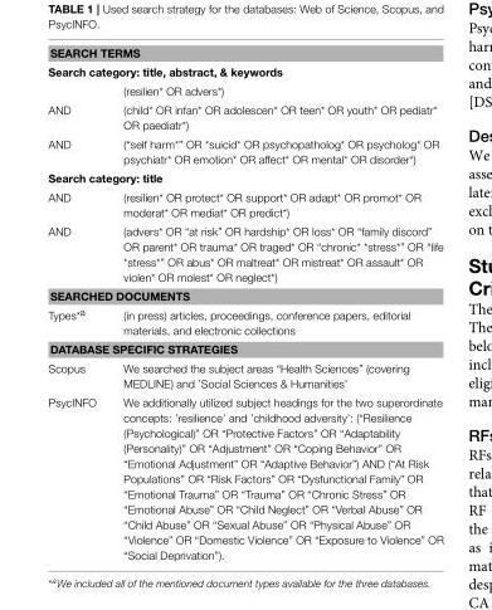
<table><tbody><tr><td colspan="2">SEARCH TERMS</td></tr><tr><td colspan="2">Search category: title, abstract, &amp; keywords</td></tr><tr><td></td><td>(resilien* OR advers*)</td></tr><tr><td>AND</td><td>(child* OR infan* OR adolescen* OR teen* OR youth* OR pediatr* OR paediatr*)</td></tr><tr><td>AND</td><td>(“self harm*” OR *suicid* OR psychopatholog* OR psycholog* OR psychiatr* OR emotion* OR affect* OR mental* OR disorder*)</td></tr><tr><td colspan="2">Search category: title</td></tr><tr><td>AND</td><td>(resilien* OR protect* OR support* OR adapt* OR promot* OR moderat* OR mediat* OR predict*)</td></tr><tr><td>AND</td><td>(advers* OR “at risk” OR hardship* OR loss* OR “family discord” OR parent* OR trauma* OR traged* OR “chronic* *stress*” OR “life *stress*” OR abus* OR maltreat* OR mistreat* OR assault* OR violen* OR molest* OR neglect*)</td></tr><tr><td colspan="2">SEARCHED DOCUMENTS</td></tr><tr><td>Types<sup>*a</sup></td><td>(in press) articles, proceedings, conference papers, editorial materials, and electronic collections</td></tr><tr><td colspan="2">DATABASE SPECIFIC STRATEGIES</td></tr><tr><td>Scopus</td><td>We searched the subject areas “Health Sciences” (covering MEDLINE) and ’Social Sciences &amp; Humanities’</td></tr><tr><td>PsycINFO</td><td>We additionally utilized subject headings for the two superordinate concepts: ’resilience’ and ’childhood adversity’: (“Resilience (Psychological)” OR “Protective Factors” OR “Adaptability (Personality)” OR “Adjustment” OR “Coping Behavior” OR “Emotional Adjustment” OR “Adaptive Behavior”) AND (“At Risk Populations” OR “Risk Factors” OR “Dysfunctional Family” OR “Emotional Trauma” OR “Trauma” OR “Chronic Stress” OR “Emotional Abuse” OR “Child Neglect” OR “Verbal Abuse” OR “Child Abuse” OR “Sexual Abuse” OR “Physical Abuse” OR “Violence” OR “Domestic Violence” OR “Exposure to Violence” OR “Social Deprivation”).</td></tr></tbody></table>